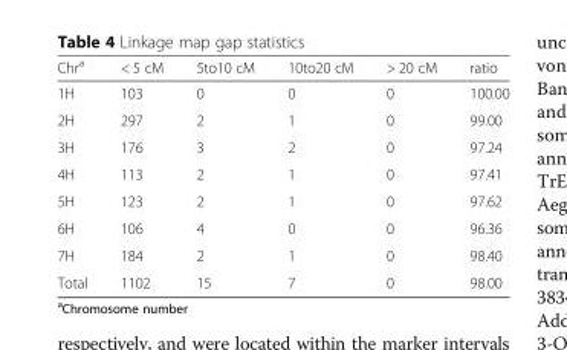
<table><thead><tr><td>Chr<sup>a</sup></td><td>&lt; 5 cM</td><td>5to10 cM</td><td>10to20 cM</td><td>&gt; 20 cM</td><td>ratio</td></tr></thead><tbody><tr><td>1H</td><td>103</td><td>0</td><td>0</td><td>0</td><td>100.00</td></tr><tr><td>2H</td><td>297</td><td>2</td><td>1</td><td>0</td><td>99.00</td></tr><tr><td>3H</td><td>176</td><td>3</td><td>2</td><td>0</td><td>97.24</td></tr><tr><td>4H</td><td>113</td><td>2</td><td>1</td><td>0</td><td>97.41</td></tr><tr><td>5H</td><td>123</td><td>2</td><td>1</td><td>0</td><td>97.62</td></tr><tr><td>6H</td><td>106</td><td>4</td><td>0</td><td>0</td><td>96.36</td></tr><tr><td>7H</td><td>184</td><td>2</td><td>1</td><td>0</td><td>98.40</td></tr><tr><td>Total</td><td>1102</td><td>15</td><td>7</td><td>0</td><td>98.00</td></tr></tbody></table>